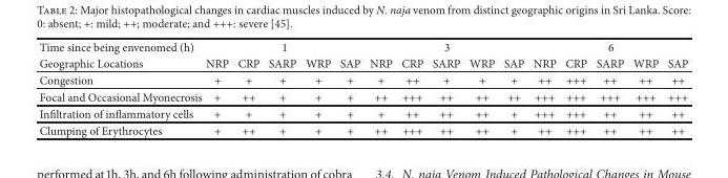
<table><thead><tr><td rowspan="2">Time since being envenomed (h) Geographic Locations</td><td colspan="5">1</td><td colspan="5">3</td><td colspan="5">6</td></tr><tr><td>NRP</td><td>CRP</td><td>SARP</td><td>WRP</td><td>SAP</td><td>NRP</td><td>CRP</td><td>SARP</td><td>WRP</td><td>SAP</td><td>NRP</td><td>CRP</td><td>SARP</td><td>WRP</td><td>SAP</td></tr></thead><tbody><tr><td>Congestion</td><td>+</td><td>+</td><td>+</td><td>+</td><td>+</td><td>+</td><td>++</td><td>+</td><td>+</td><td>+</td><td>++</td><td>+++</td><td>++</td><td>++</td><td>++</td></tr><tr><td>Focal and Occasional Myonecrosis</td><td>+</td><td>++</td><td>+</td><td>+</td><td>+</td><td>++</td><td>+++</td><td>++</td><td>++</td><td>++</td><td>+++</td><td>+++</td><td>+++</td><td>+++</td><td>+++</td></tr><tr><td>Infiltration of inflammatory cells</td><td>+</td><td>+</td><td>+</td><td>+</td><td>+</td><td>+</td><td>++</td><td>++</td><td>++</td><td>+</td><td>+++</td><td>+++</td><td>++</td><td>++</td><td>++</td></tr><tr><td>Clumping of Erythrocytes</td><td>+</td><td>++</td><td>+</td><td>+</td><td>+</td><td>++</td><td>+++</td><td>++</td><td>++</td><td>+</td><td>++</td><td>+++</td><td>++</td><td>++</td><td>++</td></tr></tbody></table>